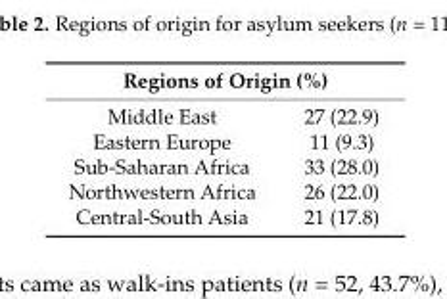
<table><thead><tr><td colspan="2">Regions of Origin (%)</td></tr><tr><td>Middle East</td><td>27 (22.9)</td></tr></thead><tbody><tr><td>Eastern Europe</td><td>11 (9.3)</td></tr><tr><td>Sub-Saharan Africa</td><td>33 (28.0)</td></tr><tr><td>Northwestern Africa</td><td>26 (22.0)</td></tr><tr><td>Central-South Asia</td><td>21 (17.8)</td></tr></tbody></table>